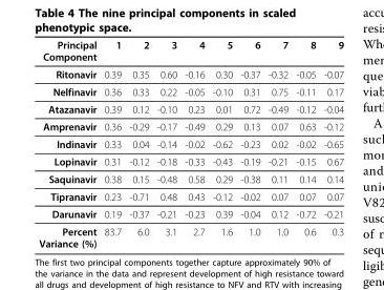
<table><thead><tr><td>Principal Component</td><td>1</td><td>2</td><td>3</td><td>4</td><td>5</td><td>6</td><td>7</td><td>8</td><td>9</td></tr></thead><tbody><tr><td>Ritonavir</td><td>0.39</td><td>0.35</td><td>0.60</td><td>-0.16</td><td>0.30</td><td>-0.37</td><td>-0.32</td><td>-0.05</td><td>-0.07</td></tr><tr><td>Nelfinavir</td><td>0.36</td><td>0.33</td><td>0.22</td><td>-0.05</td><td>-0.10</td><td>0.31</td><td>0.75</td><td>-0.11</td><td>0.17</td></tr><tr><td>Atazanavir</td><td>0.39</td><td>0.12</td><td>-0.10</td><td>0.23</td><td>0.01</td><td>0.72</td><td>-0.49</td><td>-0.12</td><td>-0.04</td></tr><tr><td>Amprenavir</td><td>0.36</td><td>-0.29</td><td>-0.17</td><td>-0.49</td><td>0.29</td><td>0.13</td><td>0.07</td><td>0.63</td><td>-0.12</td></tr><tr><td>Indinavir</td><td>0.33</td><td>0.04</td><td>-0.14</td><td>-0.02</td><td>-0.62</td><td>-0.23</td><td>0.02</td><td>-0.02</td><td>-0.65</td></tr><tr><td>Lopinavir</td><td>0.31</td><td>-0.12</td><td>-0.18</td><td>-0.33</td><td>-0.43</td><td>-0.19</td><td>-0.21</td><td>-0.15</td><td>0.67</td></tr><tr><td>Saquinavir</td><td>0.38</td><td>0.15</td><td>-0.48</td><td>0.58</td><td>0.29</td><td>-0.38</td><td>0.11</td><td>0.14</td><td>0.14</td></tr><tr><td>Tipranavir</td><td>0.23</td><td>-0.71</td><td>0.48</td><td>0.43</td><td>-0.12</td><td>-0.02</td><td>0.07</td><td>0.07</td><td>0.07</td></tr><tr><td>Darunavir</td><td>0.19</td><td>-0.37</td><td>-0.21</td><td>-0.23</td><td>0.39</td><td>-0.04</td><td>0.12</td><td>-0.72</td><td>-0.21</td></tr><tr><td>Percent Variance (%)</td><td>83.7</td><td>6.0</td><td>3.1</td><td>2.7</td><td>1.6</td><td>1.0</td><td>1.0</td><td>0.6</td><td>0.3</td></tr></tbody></table>